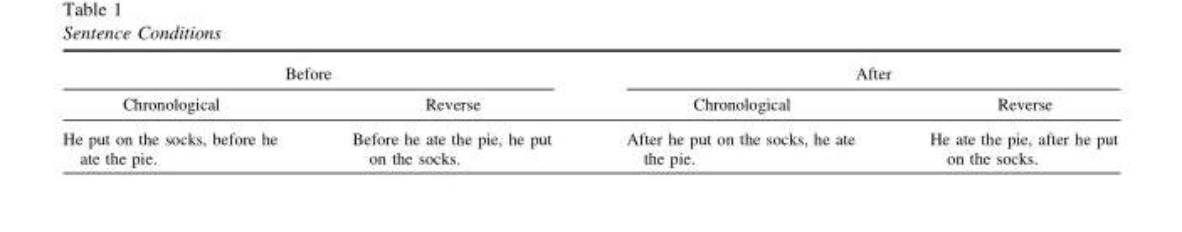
<table><thead><tr><td colspan="2">Before</td><td colspan="2">After</td></tr><tr><td>Chronological</td><td>Reverse</td><td>Chronological</td><td>Reverse</td></tr></thead><tbody><tr><td>He put on the socks, before he ate the pie.</td><td>Before he ate the pie, he put on the socks.</td><td>After he put on the socks, he ate the pie.</td><td>He ate the pie, after he put on the socks.</td></tr></tbody></table>